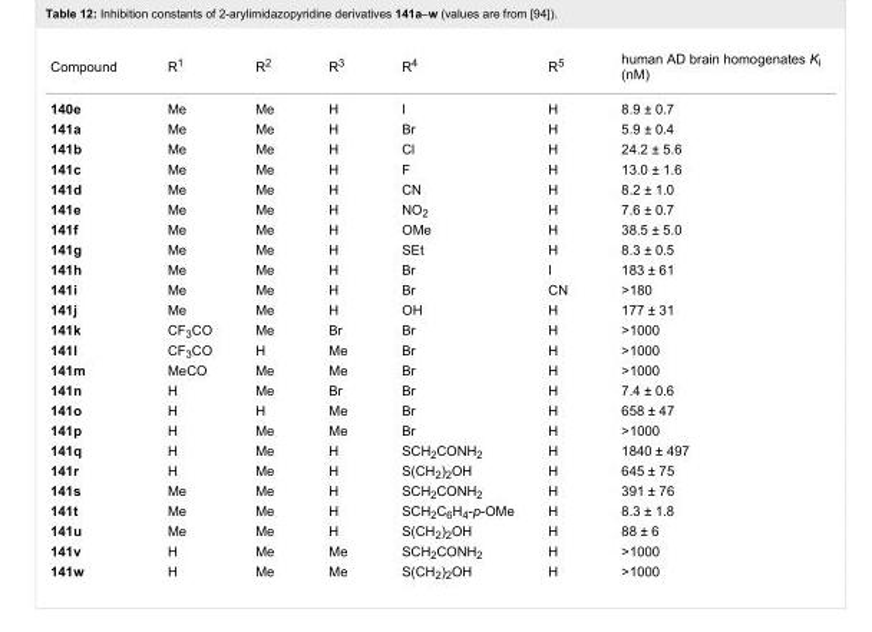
<table><tbody><tr><td>Compound</td><td>R<sup>1</sup></td><td>R<sup>2</sup></td><td>R<sup>3</sup></td><td>R<sup>4</sup></td><td>R<sup>5</sup></td><td>human AD brain homogenates K<sub>i</sub> (nM)</td></tr><tr><td>140e</td><td>Me</td><td>Me</td><td>H</td><td>I</td><td>H</td><td>8.9 ± 0.7</td></tr><tr><td>141a</td><td>Me</td><td>Me</td><td>H</td><td>Br</td><td>H</td><td>5.9 ± 0.4</td></tr><tr><td>141b</td><td>Me</td><td>Me</td><td>H</td><td>Cl</td><td>H</td><td>24.2 ± 5.6</td></tr><tr><td>141c</td><td>Me</td><td>Me</td><td>H</td><td>F</td><td>H</td><td>13.0 ± 1.6</td></tr><tr><td>141d</td><td>Me</td><td>Me</td><td>H</td><td>CN</td><td>H</td><td>8.2 ± 1.0</td></tr><tr><td>141e</td><td>Me</td><td>Me</td><td>H</td><td>NO<sub>2</sub></td><td>H</td><td>7.6 ± 0.7</td></tr><tr><td>141f</td><td>Me</td><td>Me</td><td>H</td><td>OMe</td><td>H</td><td>38.5 ± 5.0</td></tr><tr><td>141g</td><td>Me</td><td>Me</td><td>H</td><td>SEt</td><td>H</td><td>8.3 ± 0.5</td></tr><tr><td>141h</td><td>Me</td><td>Me</td><td>H</td><td>Br</td><td>I</td><td>183 ± 61</td></tr><tr><td>141i</td><td>Me</td><td>Me</td><td>H</td><td>Br</td><td>CN</td><td>&gt;180</td></tr><tr><td>141j</td><td>Me</td><td>Me</td><td>H</td><td>OH</td><td>H</td><td>177 ± 31</td></tr><tr><td>141k</td><td>CF<sub>3</sub>CO</td><td>Me</td><td>Br</td><td>Br</td><td>H</td><td>&gt;1000</td></tr><tr><td>141l</td><td>CF<sub>3</sub>CO</td><td>H</td><td>Me</td><td>Br</td><td>H</td><td>&gt;1000</td></tr><tr><td>141m</td><td>MeCO</td><td>Me</td><td>Me</td><td>Br</td><td>H</td><td>&gt;1000</td></tr><tr><td>141n</td><td>H</td><td>Me</td><td>Br</td><td>Br</td><td>H</td><td>7.4 ± 0.6</td></tr><tr><td>141o</td><td>H</td><td>H</td><td>Me</td><td>Br</td><td>H</td><td>658 ± 47</td></tr><tr><td>141p</td><td>H</td><td>Me</td><td>Me</td><td>Br</td><td>H</td><td>&gt;1000</td></tr><tr><td>141q</td><td>H</td><td>Me</td><td>H</td><td>SCH<sub>2</sub>CONH<sub>2</sub></td><td>H</td><td>1840 ± 497</td></tr><tr><td>141r</td><td>H</td><td>Me</td><td>H</td><td>S(CH<sub>2</sub>)<sub>2</sub>OH</td><td>H</td><td>645 ± 75</td></tr><tr><td>141s</td><td>Me</td><td>Me</td><td>H</td><td>SCH<sub>2</sub>CONH<sub>2</sub></td><td>H</td><td>391 ± 76</td></tr><tr><td>141t</td><td>Me</td><td>Me</td><td>H</td><td>SCH<sub>2</sub>C<sub>6</sub>H<sub>4</sub>-p-OMe</td><td>H</td><td>8.3 ± 1.8</td></tr><tr><td>141u</td><td>Me</td><td>Me</td><td>H</td><td>S(CH<sub>2</sub>)<sub>2</sub>OH</td><td>H</td><td>88 ± 6</td></tr><tr><td>141v</td><td>H</td><td>Me</td><td>Me</td><td>SCH<sub>2</sub>CONH<sub>2</sub></td><td>H</td><td>&gt;1000</td></tr><tr><td>141w</td><td>H</td><td>Me</td><td>Me</td><td>S(CH<sub>2</sub>)<sub>2</sub>OH</td><td>H</td><td>&gt;1000</td></tr></tbody></table>